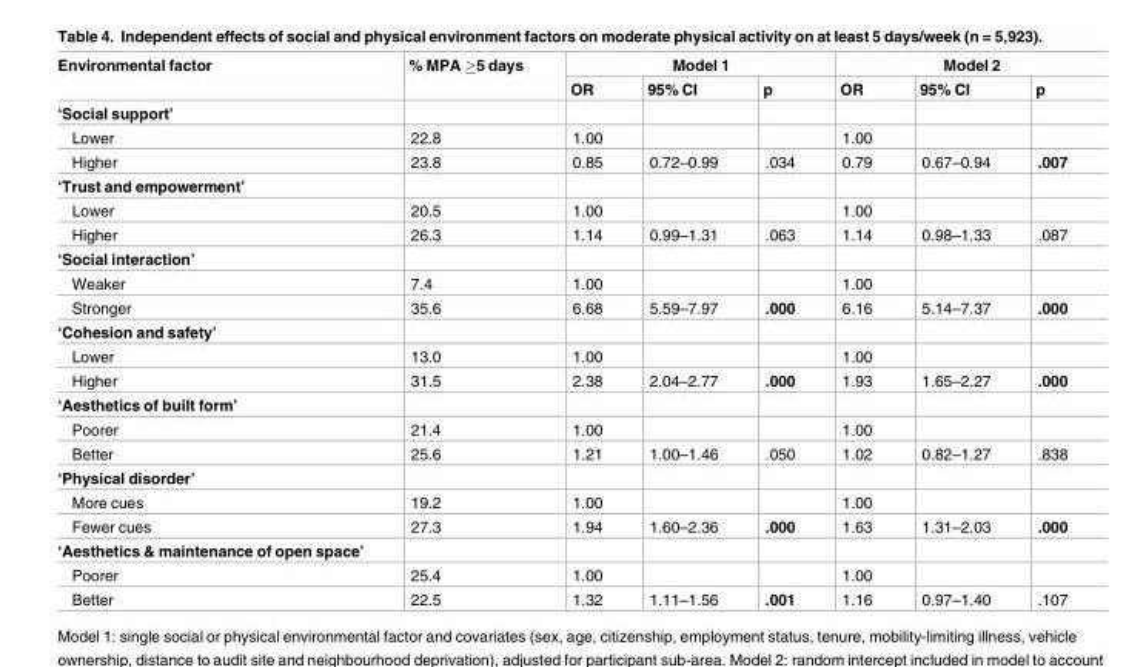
<table><thead><tr><td rowspan="2">Environmental factor</td><td rowspan="2">% MPA ≥5 days</td><td colspan="3">Model 1</td><td colspan="3">Model 2</td></tr><tr><td>OR</td><td>95% CI</td><td>p</td><td>OR</td><td>95% CI</td><td>p</td></tr></thead><tbody><tr><td colspan="8">‘Social support’</td></tr><tr><td>Lower</td><td>22.8</td><td>1.00</td><td></td><td></td><td>1.00</td><td></td><td></td></tr><tr><td>Higher</td><td>23.8</td><td>0.85</td><td>0.72–0.99</td><td>.034</td><td>0.79</td><td>0.67–0.94</td><td>.007</td></tr><tr><td colspan="8">‘Trust and empowerment’</td></tr><tr><td>Lower</td><td>20.5</td><td>1.00</td><td></td><td></td><td>1.00</td><td></td><td></td></tr><tr><td>Higher</td><td>26.3</td><td>1.14</td><td>0.99–1.31</td><td>.063</td><td>1.14</td><td>0.98–1.33</td><td>.087</td></tr><tr><td colspan="8">‘Social interaction’</td></tr><tr><td>Weaker</td><td>7.4</td><td>1.00</td><td></td><td></td><td>1.00</td><td></td><td></td></tr><tr><td>Stronger</td><td>35.6</td><td>6.68</td><td>5.59–7.97</td><td>.000</td><td>6.16</td><td>5.14–7.37</td><td>.000</td></tr><tr><td colspan="8">‘Cohesion and safety’</td></tr><tr><td>Lower</td><td>13.0</td><td>1.00</td><td></td><td></td><td>1.00</td><td></td><td></td></tr><tr><td>Higher</td><td>31.5</td><td>2.38</td><td>2.04–2.77</td><td>.000</td><td>1.93</td><td>1.65–2.27</td><td>.000</td></tr><tr><td colspan="8">‘Aesthetics of built form’</td></tr><tr><td>Poorer</td><td>21.4</td><td>1.00</td><td></td><td></td><td>1.00</td><td></td><td></td></tr><tr><td>Better</td><td>25.6</td><td>1.21</td><td>1.00–1.46</td><td>.050</td><td>1.02</td><td>0.82–1.27</td><td>.838</td></tr><tr><td colspan="8">‘Physical disorder’</td></tr><tr><td>More cues</td><td>19.2</td><td>1.00</td><td></td><td></td><td>1.00</td><td></td><td></td></tr><tr><td>Fewer cues</td><td>27.3</td><td>1.94</td><td>1.60–2.36</td><td>.000</td><td>1.63</td><td>1.31–2.03</td><td>.000</td></tr><tr><td colspan="8">‘Aesthetics &amp; maintenance of open space’</td></tr><tr><td>Poorer</td><td>25.4</td><td>1.00</td><td></td><td></td><td>1.00</td><td></td><td></td></tr><tr><td>Better</td><td>22.5</td><td>1.32</td><td>1.11–1.56</td><td>.001</td><td>1.16</td><td>0.97–1.40</td><td>.107</td></tr></tbody></table>